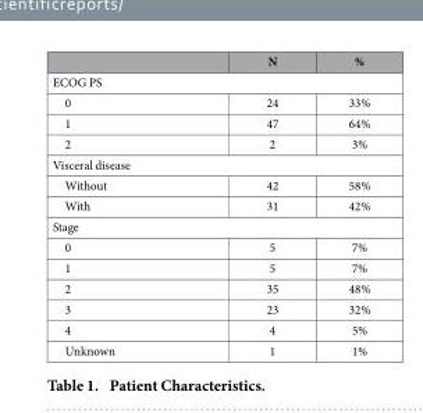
<table><thead><tr><td></td><td>N</td><td>%</td></tr></thead><tbody><tr><td colspan="3">ECOG PS</td></tr><tr><td>0</td><td>24</td><td>33%</td></tr><tr><td>1</td><td>47</td><td>64%</td></tr><tr><td>2</td><td>2</td><td>3%</td></tr><tr><td colspan="3">Visceral disease</td></tr><tr><td>Without</td><td>42</td><td>58%</td></tr><tr><td>With</td><td>31</td><td>42%</td></tr><tr><td colspan="3">Stage</td></tr><tr><td>0</td><td>5</td><td>7%</td></tr><tr><td>1</td><td>5</td><td>7%</td></tr><tr><td>2</td><td>35</td><td>48%</td></tr><tr><td>3</td><td>23</td><td>32%</td></tr><tr><td>4</td><td>4</td><td>5%</td></tr><tr><td>Unknown</td><td>1</td><td>1%</td></tr></tbody></table>